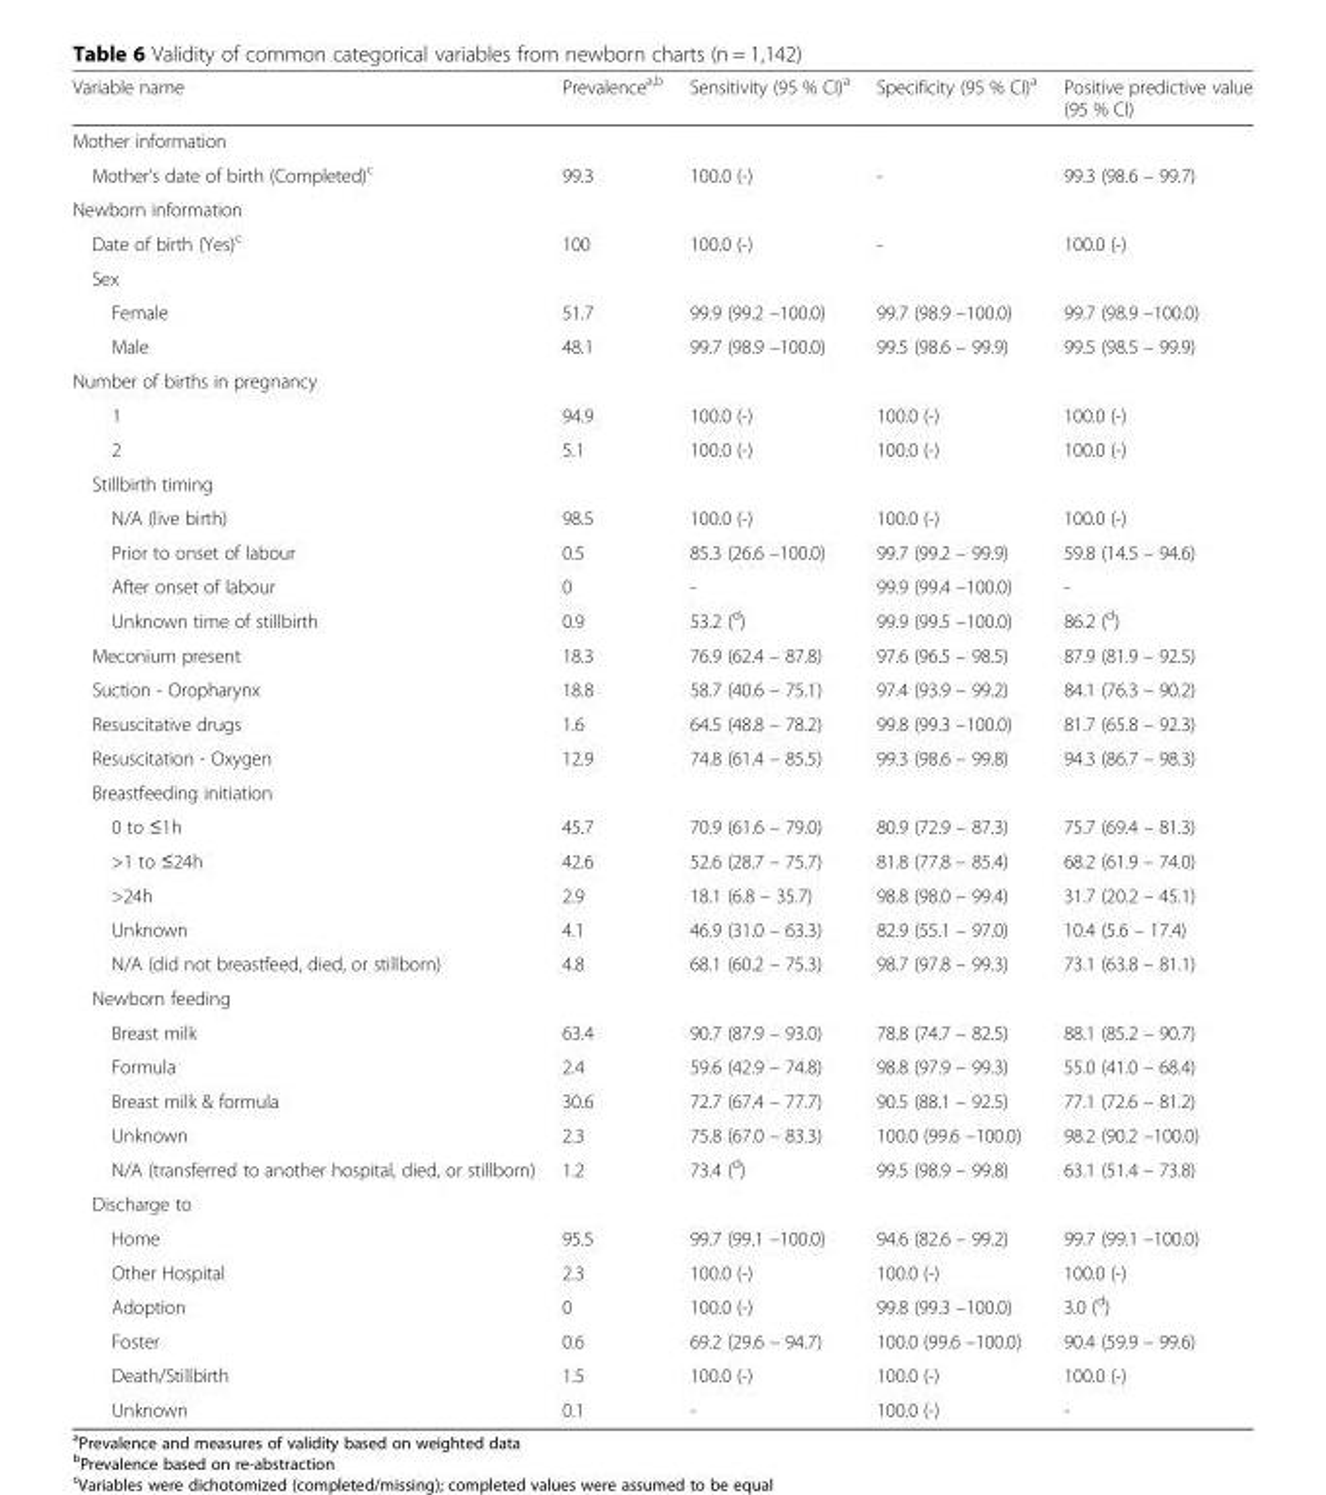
<table><thead><tr><td>Variable name</td><td>Prevalence<sup>a,b</sup></td><td>Sensitivity (95 % CI)<sup>a</sup></td><td>Specificity (95 % CI)<sup>a</sup></td><td>Positive predictive value (95 % CI)</td></tr></thead><tbody><tr><td colspan="5">Mother information</td></tr><tr><td>Mother’s date of birth (Completed)<sup>c</sup></td><td>99.3</td><td>100.0 (-)</td><td>-</td><td>99.3 (98.6 – 99.7)</td></tr><tr><td colspan="5">Newborn information</td></tr><tr><td>Date of birth (Yes)<sup>c</sup></td><td>100</td><td>100.0 (-)</td><td>-</td><td>100.0 (-)</td></tr><tr><td colspan="5">Sex</td></tr><tr><td>Female</td><td>51.7</td><td>99.9 (99.2 –100.0)</td><td>99.7 (98.9 –100.0)</td><td>99.7 (98.9 –100.0)</td></tr><tr><td>Male</td><td>48.1</td><td>99.7 (98.9 –100.0)</td><td>99.5 (98.6 – 99.9)</td><td>99.5 (98.5 – 99.9)</td></tr><tr><td colspan="5">Number of births in pregnancy</td></tr><tr><td>1</td><td>94.9</td><td>100.0 (-)</td><td>100.0 (-)</td><td>100.0 (-)</td></tr><tr><td>2</td><td>5.1</td><td>100.0 (-)</td><td>100.0 (-)</td><td>100.0 (-)</td></tr><tr><td colspan="5">Stillbirth timing</td></tr><tr><td>N/A (live birth)</td><td>98.5</td><td>100.0 (-)</td><td>100.0 (-)</td><td>100.0 (-)</td></tr><tr><td>Prior to onset of labour</td><td>0.5</td><td>85.3 (26.6 –100.0)</td><td>99.7 (99.2 – 99.9)</td><td>59.8 (14.5 – 94.6)</td></tr><tr><td>After onset of labour</td><td>0</td><td>-</td><td>99.9 (99.4 –100.0)</td><td>-</td></tr><tr><td>Unknown time of stillbirth</td><td>0.9</td><td>53.2 (<sup>d</sup>)</td><td>99.9 (99.5 –100.0)</td><td>86.2 (<sup>d</sup>)</td></tr><tr><td>Meconium present</td><td>18.3</td><td>76.9 (62.4 – 87.8)</td><td>97.6 (96.5 – 98.5)</td><td>87.9 (81.9 – 92.5)</td></tr><tr><td>Suction - Oropharynx</td><td>18.8</td><td>58.7 (40.6 – 75.1)</td><td>97.4 (93.9 – 99.2)</td><td>84.1 (76.3 – 90.2)</td></tr><tr><td>Resuscitative drugs</td><td>1.6</td><td>64.5 (48.8 – 78.2)</td><td>99.8 (99.3 –100.0)</td><td>81.7 (65.8 – 92.3)</td></tr><tr><td>Resuscitation - Oxygen</td><td>12.9</td><td>74.8 (61.4 – 85.5)</td><td>99.3 (98.6 – 99.8)</td><td>94.3 (86.7 – 98.3)</td></tr><tr><td colspan="5">Breastfeeding initiation</td></tr><tr><td>0 to ≤1h</td><td>45.7</td><td>70.9 (61.6 – 79.0)</td><td>80.9 (72.9 – 87.3)</td><td>75.7 (69.4 – 81.3)</td></tr><tr><td>&gt;1 to ≤24h</td><td>42.6</td><td>52.6 (28.7 – 75.7)</td><td>81.8 (77.8 – 85.4)</td><td>68.2 (61.9 – 74.0)</td></tr><tr><td>&gt;24h</td><td>2.9</td><td>18.1 (6.8 – 35.7)</td><td>98.8 (98.0 – 99.4)</td><td>31.7 (20.2 – 45.1)</td></tr><tr><td>Unknown</td><td>4.1</td><td>46.9 (31.0 – 63.3)</td><td>82.9 (55.1 – 97.0)</td><td>10.4 (5.6 – 17.4)</td></tr><tr><td>N/A (did not breastfeed, died, or stillborn)</td><td>4.8</td><td>68.1 (60.2 – 75.3)</td><td>98.7 (97.8 – 99.3)</td><td>73.1 (63.8 – 81.1)</td></tr><tr><td colspan="5">Newborn feeding</td></tr><tr><td>Breast milk</td><td>63.4</td><td>90.7 (87.9 – 93.0)</td><td>78.8 (74.7 – 82.5)</td><td>88.1 (85.2 – 90.7)</td></tr><tr><td>Formula</td><td>2.4</td><td>59.6 (42.9 – 74.8)</td><td>98.8 (97.9 – 99.3)</td><td>55.0 (41.0 – 68.4)</td></tr><tr><td>Breast milk &amp; formula</td><td>30.6</td><td>72.7 (67.4 – 77.7)</td><td>90.5 (88.1 – 92.5)</td><td>77.1 (72.6 – 81.2)</td></tr><tr><td>Unknown</td><td>2.3</td><td>75.8 (67.0 – 83.3)</td><td>100.0 (99.6 –100.0)</td><td>98.2 (90.2 –100.0)</td></tr><tr><td>N/A (transferred to another hospital, died, or stillborn)</td><td>1.2</td><td>73.4 (<sup>d</sup>)</td><td>99.5 (98.9 – 99.8)</td><td>63.1 (51.4 – 73.8)</td></tr><tr><td colspan="5">Discharge to</td></tr><tr><td>Home</td><td>95.5</td><td>99.7 (99.1 –100.0)</td><td>94.6 (82.6 – 99.2)</td><td>99.7 (99.1 –100.0)</td></tr><tr><td>Other Hospital</td><td>2.3</td><td>100.0 (-)</td><td>100.0 (-)</td><td>100.0 (-)</td></tr><tr><td>Adoption</td><td>0</td><td>100.0 (-)</td><td>99.8 (99.3 –100.0)</td><td>3.0 (<sup>d</sup>)</td></tr><tr><td>Foster</td><td>0.6</td><td>69.2 (29.6 – 94.7)</td><td>100.0 (99.6 –100.0)</td><td>90.4 (59.9 – 99.6)</td></tr><tr><td>Death/Stillbirth</td><td>1.5</td><td>100.0 (-)</td><td>100.0 (-)</td><td>100.0 (-)</td></tr><tr><td>Unknown</td><td>0.1</td><td>-</td><td>100.0 (-)</td><td>-</td></tr></tbody></table>